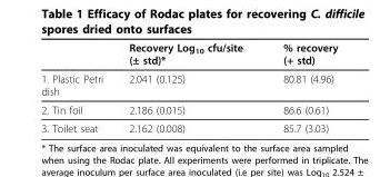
<table><thead><tr><td></td><td>Recovery Log<sub>10</sub> cfu/site (± std)*</td><td>% recovery (+ std)</td></tr></thead><tbody><tr><td>1. Plastic Petri dish</td><td>2.041 (0.125)</td><td>80.81 (4.96)</td></tr><tr><td>2. Tin foil</td><td>2.186 (0.015)</td><td>86.6 (0.61)</td></tr><tr><td>3. Toilet seat</td><td>2.162 (0.008)</td><td>85.7 (3.03)</td></tr></tbody></table>